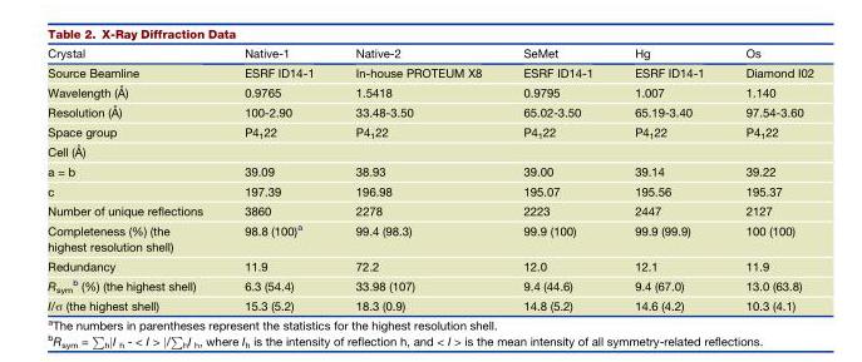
<table><thead><tr><td>Crystal</td><td>Native-1</td><td>Native-2</td><td>SeMet</td><td>Hg</td><td>Os</td></tr></thead><tbody><tr><td>Source Beamline</td><td>ESRF ID14-1</td><td>In-house PROTEUM X8</td><td>ESRF ID14-1</td><td>ESRF ID14-1</td><td>Diamond I02</td></tr><tr><td>Wavelength (A˚ )</td><td>0.9765</td><td>1.5418</td><td>0.9795</td><td>1.007</td><td>1.140</td></tr><tr><td>Resolution (A˚ )</td><td>100-2.90</td><td>33.48-3.50</td><td>65.02-3.50</td><td>65.19-3.40</td><td>97.54-3.60</td></tr><tr><td>Space group</td><td>P4<sub>1</sub>22</td><td>P4<sub>1</sub>22</td><td>P4<sub>1</sub>22</td><td>P4<sub>1</sub>22</td><td>P4<sub>1</sub>22</td></tr><tr><td colspan="6">Cell (A˚ )</td></tr><tr><td>a = b</td><td>39.09</td><td>38.93</td><td>39.00</td><td>39.14</td><td>39.22</td></tr><tr><td>c</td><td>197.39</td><td>196.98</td><td>195.07</td><td>195.56</td><td>195.37</td></tr><tr><td>Number of unique reflections</td><td>3860</td><td>2278</td><td>2223</td><td>2447</td><td>2127</td></tr><tr><td>Completeness (%) (the highest resolution shell)</td><td>98.8 (100)<sup>a</sup></td><td>99.4 (98.3)</td><td>99.9 (100)</td><td>99.9 (99.9)</td><td>100 (100)</td></tr><tr><td>Redundancy</td><td>11.9</td><td>72.2</td><td>12.0</td><td>12.1</td><td>11.9</td></tr><tr><td>R<sub>sym</sub> <sup>b</sup> (%) (the highest shell)</td><td>6.3 (54.4)</td><td>33.98 (107)</td><td>9.4 (44.6)</td><td>9.4 (67.0)</td><td>13.0 (63.8)</td></tr><tr><td>I/σ (the highest shell)</td><td>15.3 (5.2)</td><td>18.3 (0.9)</td><td>14.8 (5.2)</td><td>14.6 (4.2)</td><td>10.3 (4.1)</td></tr></tbody></table>